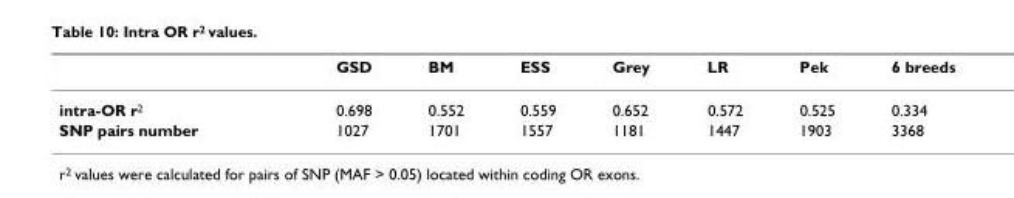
<table><thead><tr><td></td><td>GSD</td><td>BM</td><td>ESS</td><td>Grey</td><td>LR</td><td>Pek</td><td>6 breeds</td></tr></thead><tbody><tr><td>intra-OR r<sup>2</sup></td><td>0.698</td><td>0.552</td><td>0.559</td><td>0.652</td><td>0.572</td><td>0.525</td><td>0.334</td></tr><tr><td>SNP pairs number</td><td>1027</td><td>1701</td><td>1557</td><td>1181</td><td>1447</td><td>1903</td><td>3368</td></tr></tbody></table>